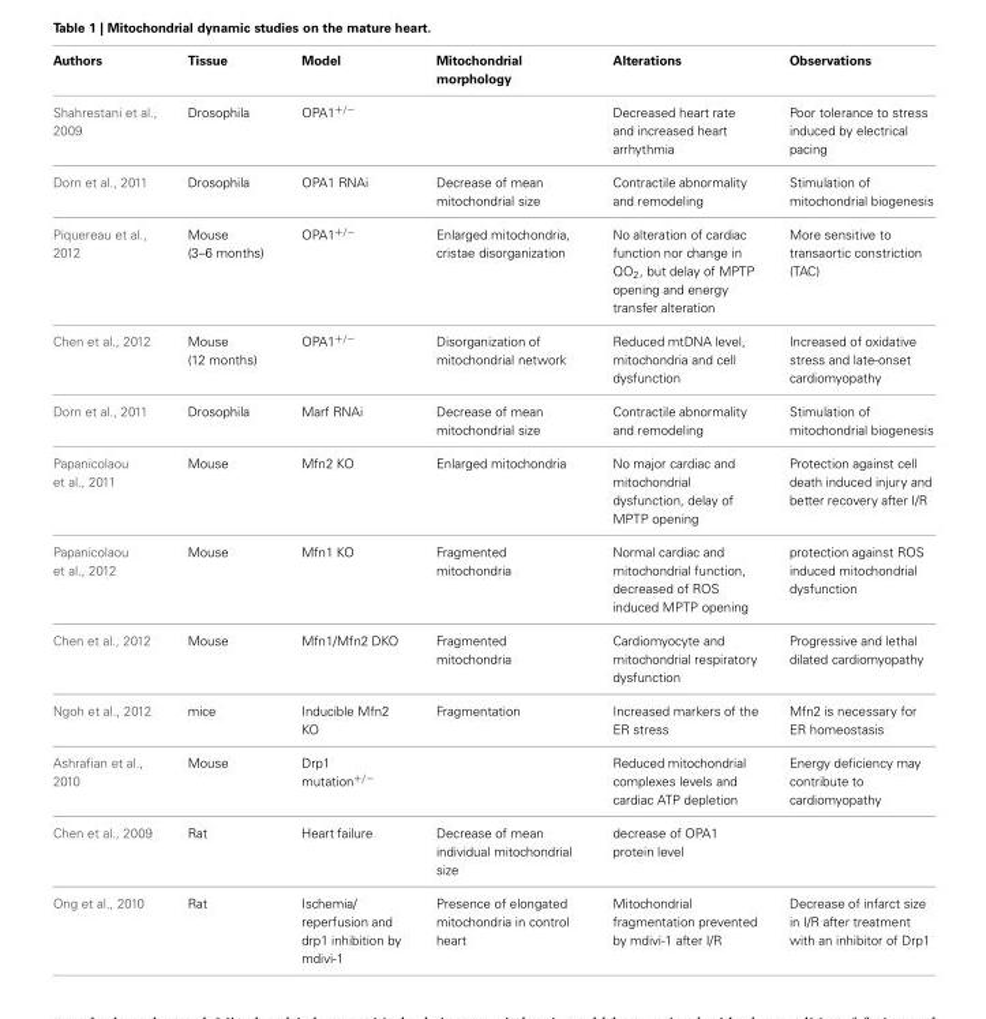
<table><thead><tr><td>Authors</td><td>Tissue</td><td>Model</td><td>Mitochondrial morphology</td><td>Alterations</td><td>Observations</td></tr></thead><tbody><tr><td>Shahrestani et al., 2009</td><td>Drosophila</td><td>OPA1<sup>+/−</sup></td><td></td><td>Decreased heart rate and increased heart arrhythmia</td><td>Poor tolerance to stress induced by electrical pacing</td></tr><tr><td>Dorn et al., 2011</td><td>Drosophila</td><td>OPA1 RNAi</td><td>Decrease of mean mitochondrial size</td><td>Contractile abnormality and remodeling</td><td>Stimulation of mitochondrial biogenesis</td></tr><tr><td>Piquereau et al., 2012</td><td>Mouse (3–6 months)</td><td>OPA1<sup>+/−</sup></td><td>Enlarged mitochondria, cristae disorganization</td><td>No alteration of cardiac function nor change in QO<sub>2</sub>, but delay of MPTP opening and energy transfer alteration</td><td>More sensitive to transaortic constriction (TAC)</td></tr><tr><td>Chen et al., 2012</td><td>Mouse (12 months)</td><td>OPA1<sup>+/−</sup></td><td>Disorganization of mitochondrial network</td><td>Reduced mtDNA level, mitochondria and cell dysfunction</td><td>Increased of oxidative stress and late-onset cardiomyopathy</td></tr><tr><td>Dorn et al., 2011</td><td>Drosophila</td><td>Marf RNAi</td><td>Decrease of mean mitochondrial size</td><td>Contractile abnormality and remodeling</td><td>Stimulation of mitochondrial biogenesis</td></tr><tr><td>Papanicolaou et al., 2011</td><td>Mouse</td><td>Mfn2 KO</td><td>Enlarged mitochondria</td><td>No major cardiac and mitochondrial dysfunction, delay of MPTP opening</td><td>Protection against cell death induced injury and better recovery after I/R</td></tr><tr><td>Papanicolaou et al., 2012</td><td>Mouse</td><td>Mfn1 KO</td><td>Fragmented mitochondria</td><td>Normal cardiac and mitochondrial function, decreased of ROS induced MPTP opening</td><td>protection against ROS induced mitochondrial dysfunction</td></tr><tr><td>Chen et al., 2012</td><td>Mouse</td><td>Mfn1/Mfn2 DKO</td><td>Fragmented mitochondria</td><td>Cardiomyocyte and mitochondrial respiratory dysfunction</td><td>Progressive and lethal dilated cardiomyopathy</td></tr><tr><td>Ngoh et al., 2012</td><td>mice</td><td>Inducible Mfn2 KO</td><td>Fragmentation</td><td>Increased markers of the ER stress</td><td>Mfn2 is necessary for ER homeostasis</td></tr><tr><td>Ashrafian et al., 2010</td><td>Mouse</td><td>Drp1 mutation<sup>+/−</sup></td><td></td><td>Reduced mitochondrial complexes levels and cardiac ATP depletion</td><td>Energy deficiency may contribute to cardiomyopathy</td></tr><tr><td>Chen et al., 2009</td><td>Rat</td><td>Heart failure</td><td>Decrease of mean individual mitochondrial size</td><td>decrease of OPA1 protein level</td><td></td></tr><tr><td>Ong et al., 2010</td><td>Rat</td><td>Ischemia/ reperfusion and drp1 inhibition by mdivi-1</td><td>Presence of elongated mitochondria in control heart</td><td>Mitochondrial fragmentation prevented by mdivi-1 after I/R</td><td>Decrease of infarct size in I/R after treatment with an inhibitor of Drp1</td></tr></tbody></table>